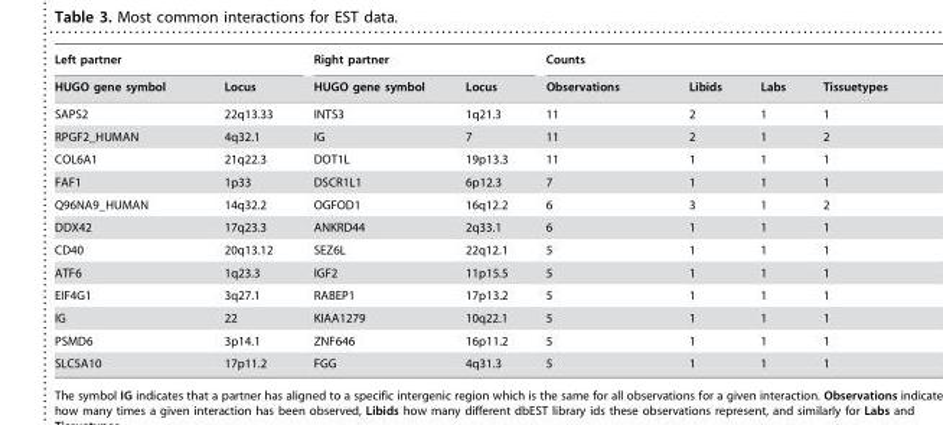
<table><thead><tr><td colspan="2">Left partner</td><td colspan="2">Right partner</td><td colspan="4">Counts</td></tr><tr><td>HUGO gene symbol</td><td>Locus</td><td>HUGO gene symbol</td><td>Locus</td><td>Observations</td><td>Libids</td><td>Labs</td><td>Tissuetypes</td></tr></thead><tbody><tr><td>SAPS2</td><td>22q13.33</td><td>INTS3</td><td>1q21.3</td><td>11</td><td>2</td><td>1</td><td>1</td></tr><tr><td>RPGF2_HUMAN</td><td>4q32.1</td><td>IG</td><td>7</td><td>11</td><td>2</td><td>1</td><td>2</td></tr><tr><td>COL6A1</td><td>21q22.3</td><td>DOT1L</td><td>19p13.3</td><td>11</td><td>1</td><td>1</td><td>1</td></tr><tr><td>FAF1</td><td>1p33</td><td>DSCR1L1</td><td>6p12.3</td><td>7</td><td>1</td><td>1</td><td>1</td></tr><tr><td>Q96NA9_HUMAN</td><td>14q32.2</td><td>OGFOD1</td><td>16q12.2</td><td>6</td><td>3</td><td>1</td><td>2</td></tr><tr><td>DDX42</td><td>17q23.3</td><td>ANKRD44</td><td>2q33.1</td><td>6</td><td>1</td><td>1</td><td>1</td></tr><tr><td>CD40</td><td>20q13.12</td><td>SEZ6L</td><td>22q12.1</td><td>5</td><td>1</td><td>1</td><td>1</td></tr><tr><td>ATF6</td><td>1q23.3</td><td>IGF2</td><td>11p15.5</td><td>5</td><td>1</td><td>1</td><td>1</td></tr><tr><td>EIF4G1</td><td>3q27.1</td><td>RABEP1</td><td>17p13.2</td><td>5</td><td>1</td><td>1</td><td>1</td></tr><tr><td>IG</td><td>22</td><td>KIAA1279</td><td>10q22.1</td><td>5</td><td>1</td><td>1</td><td>1</td></tr><tr><td>PSMD6</td><td>3p14.1</td><td>ZNF646</td><td>16p11.2</td><td>5</td><td>1</td><td>1</td><td>1</td></tr><tr><td>SLC5A10</td><td>17p11.2</td><td>FGG</td><td>4q31.3</td><td>5</td><td>1</td><td>1</td><td>1</td></tr></tbody></table>